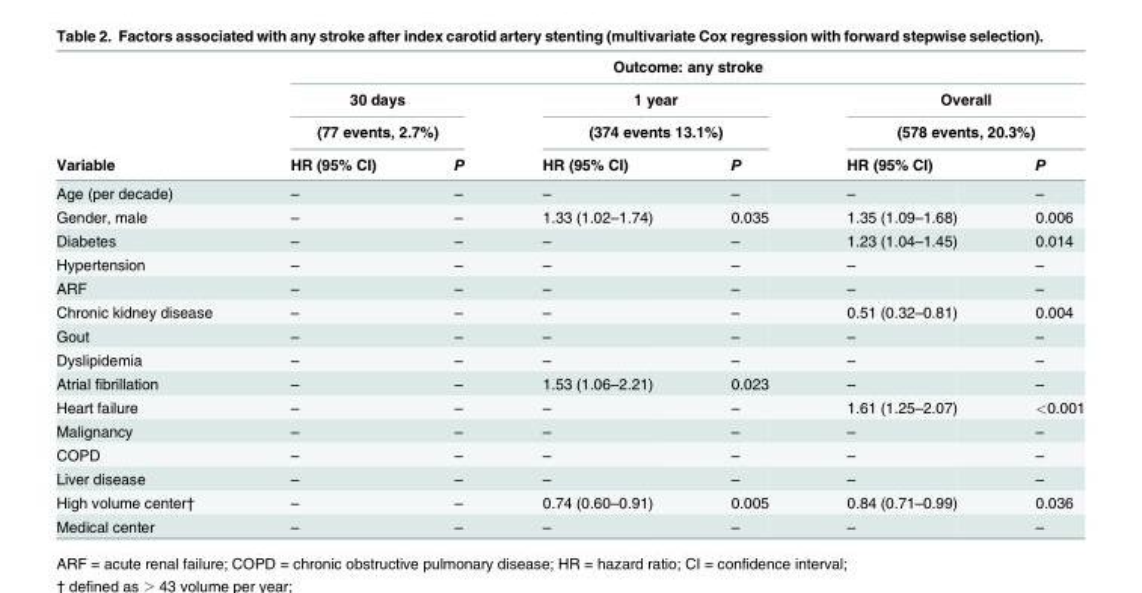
<table><thead><tr><td rowspan="4">Variable</td><td colspan="6">Outcome: any stroke</td></tr><tr><td rowspan="2" colspan="2">30 days (77 events, 2.7%)</td><td rowspan="2" colspan="2">1 year (374 events 13.1%)</td><td rowspan="2" colspan="2">Overall (578 events, 20.3%)</td></tr><tr></tr><tr><td>HR (95% CI)</td><td>P</td><td>HR (95% CI)</td><td>P</td><td>HR (95% CI)</td><td>P</td></tr></thead><tbody><tr><td>Age (per decade)</td><td>–</td><td>–</td><td>–</td><td>–</td><td>–</td><td>–</td></tr><tr><td>Gender, male</td><td>–</td><td>–</td><td>1.33 (1.02–1.74)</td><td>0.035</td><td>1.35 (1.09–1.68)</td><td>0.006</td></tr><tr><td>Diabetes</td><td>–</td><td>–</td><td>–</td><td>–</td><td>1.23 (1.04–1.45)</td><td>0.014</td></tr><tr><td>Hypertension</td><td>–</td><td>–</td><td>–</td><td>–</td><td>–</td><td>–</td></tr><tr><td>ARF</td><td>–</td><td>–</td><td>–</td><td>–</td><td>–</td><td>–</td></tr><tr><td>Chronic kidney disease</td><td>–</td><td>–</td><td>–</td><td>–</td><td>0.51 (0.32–0.81)</td><td>0.004</td></tr><tr><td>Gout</td><td>–</td><td>–</td><td>–</td><td>–</td><td>–</td><td>–</td></tr><tr><td>Dyslipidemia</td><td>–</td><td>–</td><td>–</td><td>–</td><td>–</td><td>–</td></tr><tr><td>Atrial fibrillation</td><td>–</td><td>–</td><td>1.53 (1.06–2.21)</td><td>0.023</td><td>–</td><td>–</td></tr><tr><td>Heart failure</td><td>–</td><td>–</td><td>–</td><td>–</td><td>1.61 (1.25–2.07)</td><td>&lt;0.001</td></tr><tr><td>Malignancy</td><td>–</td><td>–</td><td>–</td><td>–</td><td>–</td><td>–</td></tr><tr><td>COPD</td><td>–</td><td>–</td><td>–</td><td>–</td><td>–</td><td>–</td></tr><tr><td>Liver disease</td><td>–</td><td>–</td><td>–</td><td>–</td><td>–</td><td>–</td></tr><tr><td>High volume center†</td><td>–</td><td>–</td><td>0.74 (0.60–0.91)</td><td>0.005</td><td>0.84 (0.71–0.99)</td><td>0.036</td></tr><tr><td>Medical center</td><td>–</td><td>–</td><td>–</td><td>–</td><td>–</td><td>–</td></tr></tbody></table>